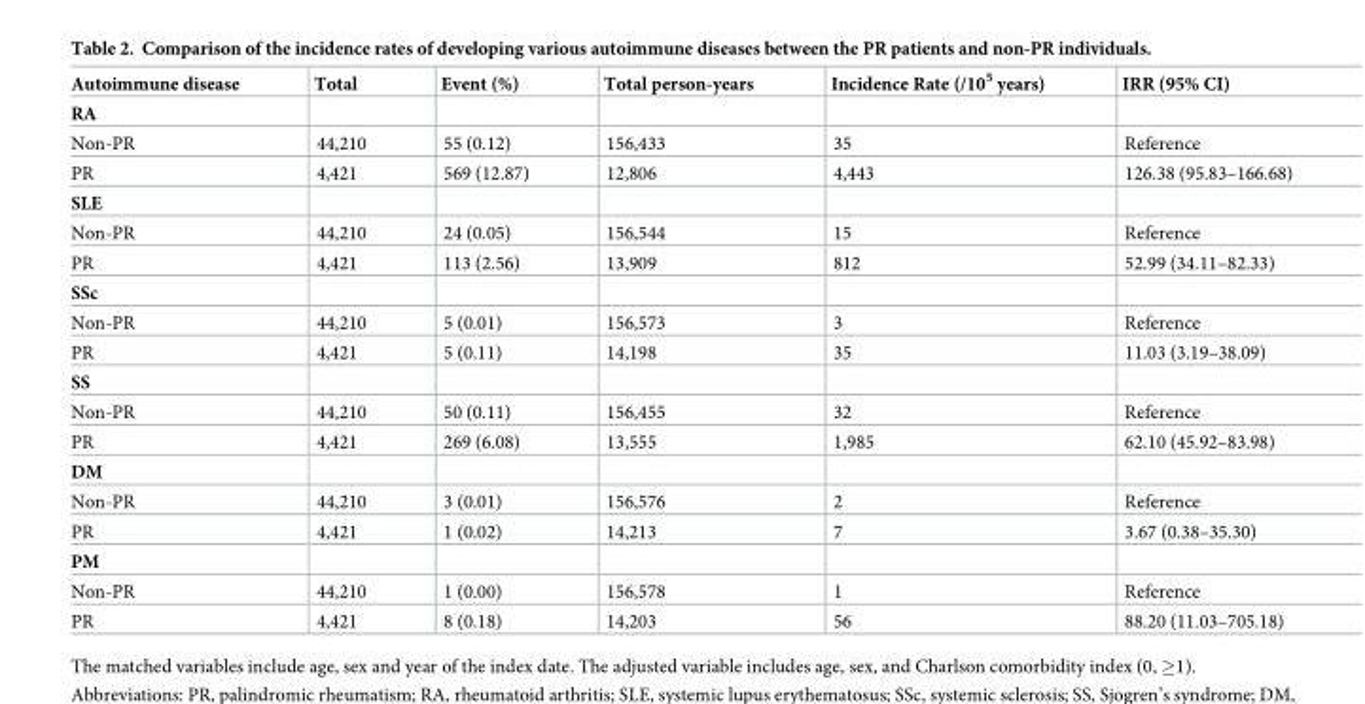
<table><thead><tr><td>Autoimmune disease</td><td>Total</td><td>Event (%)</td><td>Total person-years</td><td>Incidence Rate (/10<sup>5</sup> years)</td><td>IRR (95% CI)</td></tr></thead><tbody><tr><td colspan="6">RA</td></tr><tr><td>Non-PR</td><td>44,210</td><td>55 (0.12)</td><td>156,433</td><td>35</td><td>Reference</td></tr><tr><td>PR</td><td>4,421</td><td>569 (12.87)</td><td>12,806</td><td>4,443</td><td>126.38 (95.83–166.68)</td></tr><tr><td colspan="6">SLE</td></tr><tr><td>Non-PR</td><td>44,210</td><td>24 (0.05)</td><td>156,544</td><td>15</td><td>Reference</td></tr><tr><td>PR</td><td>4,421</td><td>113 (2.56)</td><td>13,909</td><td>812</td><td>52.99 (34.11–82.33)</td></tr><tr><td colspan="6">SSc</td></tr><tr><td>Non-PR</td><td>44,210</td><td>5 (0.01)</td><td>156,573</td><td>3</td><td>Reference</td></tr><tr><td>PR</td><td>4,421</td><td>5 (0.11)</td><td>14,198</td><td>35</td><td>11.03 (3.19–38.09)</td></tr><tr><td colspan="6">SS</td></tr><tr><td>Non-PR</td><td>44,210</td><td>50 (0.11)</td><td>156,455</td><td>32</td><td>Reference</td></tr><tr><td>PR</td><td>4,421</td><td>269 (6.08)</td><td>13,555</td><td>1,985</td><td>62.10 (45.92–83.98)</td></tr><tr><td colspan="6">DM</td></tr><tr><td>Non-PR</td><td>44,210</td><td>3 (0.01)</td><td>156,576</td><td>2</td><td>Reference</td></tr><tr><td>PR</td><td>4,421</td><td>1 (0.02)</td><td>14,213</td><td>7</td><td>3.67 (0.38–35.30)</td></tr><tr><td colspan="6">PM</td></tr><tr><td>Non-PR</td><td>44,210</td><td>1 (0.00)</td><td>156,578</td><td>1</td><td>Reference</td></tr><tr><td>PR</td><td>4,421</td><td>8 (0.18)</td><td>14,203</td><td>56</td><td>88.20 (11.03–705.18)</td></tr></tbody></table>